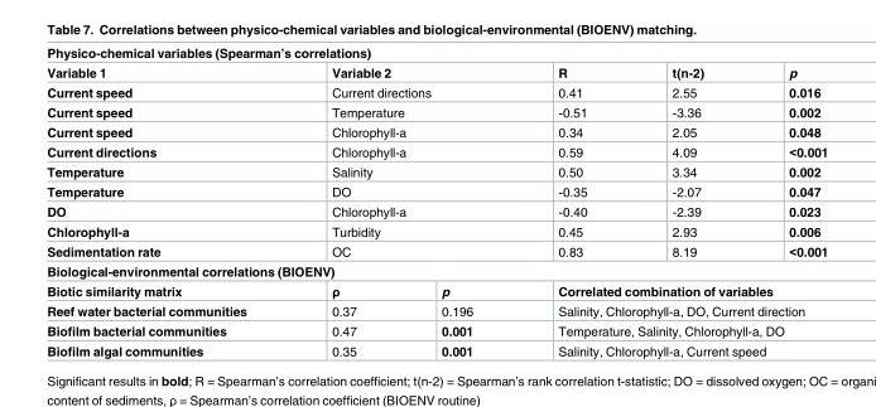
<table><tbody><tr><td colspan="6">Physico-chemical variables (Spearman’s correlations)</td></tr><tr><td>Variable 1</td><td colspan="2">Variable 2</td><td>R</td><td>t(n-2)</td><td>p</td></tr><tr><td>Current speed</td><td colspan="2">Current directions</td><td>0.41</td><td>2.55</td><td>0.016</td></tr><tr><td>Current speed</td><td colspan="2">Temperature</td><td>-0.51</td><td>-3.36</td><td>0.002</td></tr><tr><td>Current speed</td><td colspan="2">Chlorophyll-a</td><td>0.34</td><td>2.05</td><td>0.048</td></tr><tr><td>Current directions</td><td colspan="2">Chlorophyll-a</td><td>0.59</td><td>4.09</td><td>&lt;0.001</td></tr><tr><td>Temperature</td><td colspan="2">Salinity</td><td>0.50</td><td>3.34</td><td>0.002</td></tr><tr><td>Temperature</td><td colspan="2">DO</td><td>-0.35</td><td>-2.07</td><td>0.047</td></tr><tr><td>DO</td><td colspan="2">Chlorophyll-a</td><td>-0.40</td><td>-2.39</td><td>0.023</td></tr><tr><td>Chlorophyll-a</td><td colspan="2">Turbidity</td><td>0.45</td><td>2.93</td><td>0.006</td></tr><tr><td>Sedimentation rate</td><td colspan="2">OC</td><td>0.83</td><td>8.19</td><td>&lt;0.001</td></tr><tr><td colspan="6">Biological-environmental correlations (BIOENV)</td></tr><tr><td>Biotic similarity matrix</td><td>ρ</td><td>p</td><td colspan="3">Correlated combination of variables</td></tr><tr><td>Reef water bacterial communities</td><td>0.37</td><td>0.196</td><td colspan="3">Salinity, Chlorophyll-a, DO, Current direction</td></tr><tr><td>Biofilm bacterial communities</td><td>0.47</td><td>0.001</td><td colspan="3">Temperature, Salinity, Chlorophyll-a, DO</td></tr><tr><td>Biofilm algal communities</td><td>0.35</td><td>0.001</td><td colspan="3">Salinity, Chlorophyll-a, Current speed</td></tr></tbody></table>